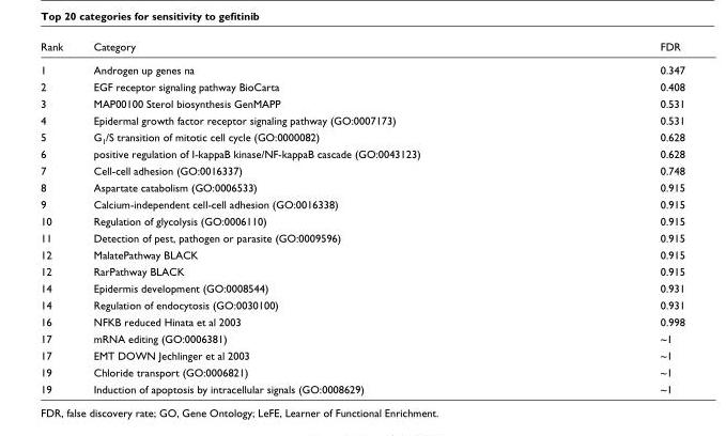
<table><thead><tr><td>Rank</td><td>Category</td><td>FDR</td></tr></thead><tbody><tr><td>1</td><td>Androgen up genes na</td><td>0.347</td></tr><tr><td>2</td><td>EGF receptor signaling pathway BioCarta</td><td>0.408</td></tr><tr><td>3</td><td>MAP00100 Sterol biosynthesis GenMAPP</td><td>0.531</td></tr><tr><td>4</td><td>Epidermal growth factor receptor signaling pathway (GO:0007173)</td><td>0.531</td></tr><tr><td>5</td><td>G<sub>1</sub>/S transition of mitotic cell cycle (GO:0000082)</td><td>0.628</td></tr><tr><td>6</td><td>positive regulation of I-kappaB kinase/NF-kappaB cascade (GO:0043123)</td><td>0.628</td></tr><tr><td>7</td><td>Cell-cell adhesion (GO:0016337)</td><td>0.748</td></tr><tr><td>8</td><td>Aspartate catabolism (GO:0006533)</td><td>0.915</td></tr><tr><td>9</td><td>Calcium-independent cell-cell adhesion (GO:0016338)</td><td>0.915</td></tr><tr><td>10</td><td>Regulation of glycolysis (GO:0006110)</td><td>0.915</td></tr><tr><td>11</td><td>Detection of pest, pathogen or parasite (GO:0009596)</td><td>0.915</td></tr><tr><td>12</td><td>MalatePathway BLACK</td><td>0.915</td></tr><tr><td>12</td><td>RarPathway BLACK</td><td>0.915</td></tr><tr><td>14</td><td>Epidermis development (GO:0008544)</td><td>0.931</td></tr><tr><td>14</td><td>Regulation of endocytosis (GO:0030100)</td><td>0.931</td></tr><tr><td>16</td><td>NFKB reduced Hinata et al 2003</td><td>0.998</td></tr><tr><td>17</td><td>mRNA editing (GO:0006381)</td><td>~1</td></tr><tr><td>17</td><td>EMT DOWN Jechlinger et al 2003</td><td>~1</td></tr><tr><td>19</td><td>Chloride transport (GO:0006821)</td><td>~1</td></tr><tr><td>19</td><td>Induction of apoptosis by intracellular signals (GO:0008629)</td><td>~1</td></tr></tbody></table>